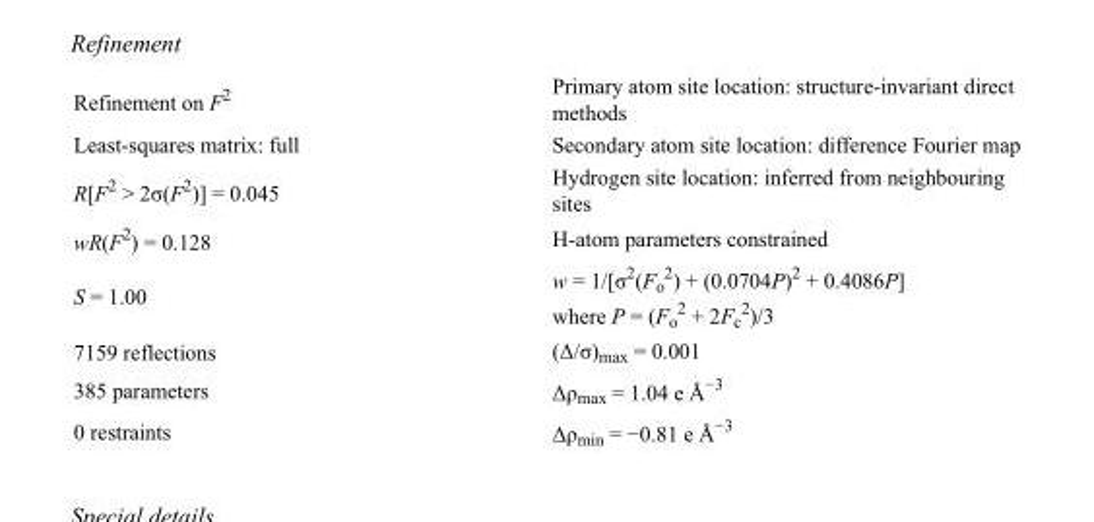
<table><tbody><tr><td>Refinement on F<sup>2</sup></td><td>Primary atom site location: structure-invariant direct methods</td></tr><tr><td>Least-squares matrix: full</td><td>Secondary atom site location: difference Fourier map</td></tr><tr><td>R[F<sup>2</sup> &gt; 2σ(F<sup>2</sup>)] = 0.045</td><td>Hydrogen site location: inferred from neighbouring sites</td></tr><tr><td>wR(F<sup>2</sup>) = 0.128</td><td>H-atom parameters constrained</td></tr><tr><td>S = 1.00</td><td>w = 1/[σ<sup>2</sup>(F<sub>o</sub> <sup>2</sup>) + (0.0704P)<sup>2</sup> + 0.4086P] where P = (F<sub>o</sub> <sup>2</sup> + 2F<sub>c</sub> <sup>2</sup>)/3</td></tr><tr><td>7159 reflections</td><td>(Δ/σ)<sub>max</sub> = 0.001</td></tr><tr><td>385 parameters</td><td>Δρ<sub>max</sub> = 1.04 e Å<sup>−3</sup></td></tr><tr><td>0 restraints</td><td>Δρ<sub>min</sub> = −0.81 e Å<sup>−3</sup></td></tr></tbody></table>